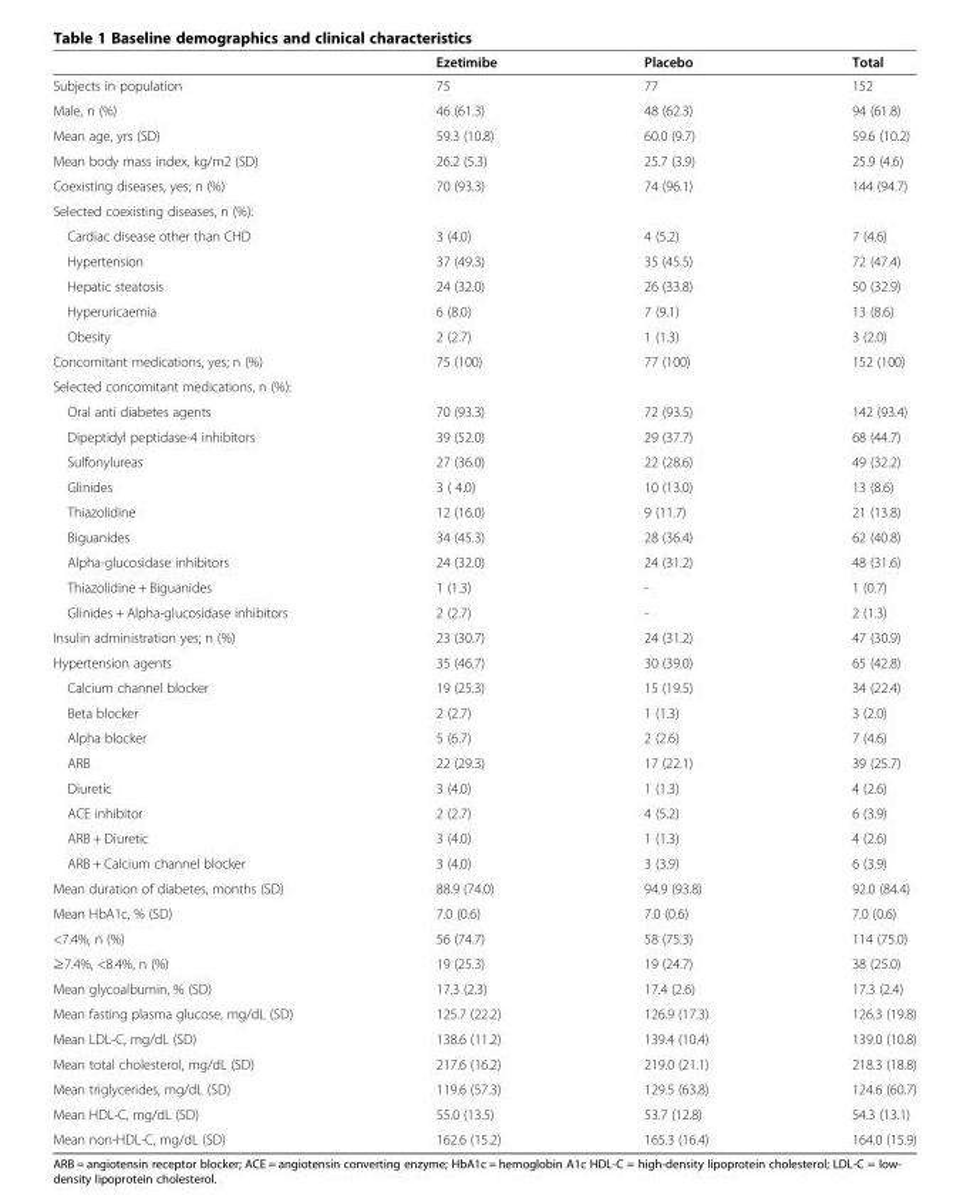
<table><thead><tr><td></td><td>Ezetimibe</td><td>Placebo</td><td>Total</td></tr></thead><tbody><tr><td>Subjects in population</td><td>75</td><td>77</td><td>152</td></tr><tr><td>Male, n (%)</td><td>46 (61.3)</td><td>48 (62.3)</td><td>94 (61.8)</td></tr><tr><td>Mean age, yrs (SD)</td><td>59.3 (10.8)</td><td>60.0 (9.7)</td><td>59.6 (10.2)</td></tr><tr><td>Mean body mass index, kg/m2 (SD)</td><td>26.2 (5.3)</td><td>25.7 (3.9)</td><td>25.9 (4.6)</td></tr><tr><td>Coexisting diseases, yes; n (%)</td><td>70 (93.3)</td><td>74 (96.1)</td><td>144 (94.7)</td></tr><tr><td colspan="4">Selected coexisting diseases, n (%):</td></tr><tr><td>Cardiac disease other than CHD</td><td>3 (4.0)</td><td>4 (5.2)</td><td>7 (4.6)</td></tr><tr><td>Hypertension</td><td>37 (49.3)</td><td>35 (45.5)</td><td>72 (47.4)</td></tr><tr><td>Hepatic steatosis</td><td>24 (32.0)</td><td>26 (33.8)</td><td>50 (32.9)</td></tr><tr><td>Hyperuricaemia</td><td>6 (8.0)</td><td>7 (9.1)</td><td>13 (8.6)</td></tr><tr><td>Obesity</td><td>2 (2.7)</td><td>1 (1.3)</td><td>3 (2.0)</td></tr><tr><td>Concomitant medications, yes; n (%)</td><td>75 (100)</td><td>77 (100)</td><td>152 (100)</td></tr><tr><td colspan="4">Selected concomitant medications, n (%):</td></tr><tr><td>Oral anti diabetes agents</td><td>70 (93.3)</td><td>72 (93.5)</td><td>142 (93.4)</td></tr><tr><td>Dipeptidyl peptidase-4 inhibitors</td><td>39 (52.0)</td><td>29 (37.7)</td><td>68 (44.7)</td></tr><tr><td>Sulfonylureas</td><td>27 (36.0)</td><td>22 (28.6)</td><td>49 (32.2)</td></tr><tr><td>Glinides</td><td>3 ( 4.0)</td><td>10 (13.0)</td><td>13 (8.6)</td></tr><tr><td>Thiazolidine</td><td>12 (16.0)</td><td>9 (11.7)</td><td>21 (13.8)</td></tr><tr><td>Biguanides</td><td>34 (45.3)</td><td>28 (36.4)</td><td>62 (40.8)</td></tr><tr><td>Alpha-glucosidase inhibitors</td><td>24 (32.0)</td><td>24 (31.2)</td><td>48 (31.6)</td></tr><tr><td>Thiazolidine + Biguanides</td><td>1 (1.3)</td><td>-</td><td>1 (0.7)</td></tr><tr><td>Glinides + Alpha-glucosidase inhibitors</td><td>2 (2.7)</td><td>-</td><td>2 (1.3)</td></tr><tr><td>Insulin administration yes; n (%)</td><td>23 (30.7)</td><td>24 (31.2)</td><td>47 (30.9)</td></tr><tr><td>Hypertension agents</td><td>35 (46.7)</td><td>30 (39.0)</td><td>65 (42.8)</td></tr><tr><td>Calcium channel blocker</td><td>19 (25.3)</td><td>15 (19.5)</td><td>34 (22.4)</td></tr><tr><td>Beta blocker</td><td>2 (2.7)</td><td>1 (1.3)</td><td>3 (2.0)</td></tr><tr><td>Alpha blocker</td><td>5 (6.7)</td><td>2 (2.6)</td><td>7 (4.6)</td></tr><tr><td>ARB</td><td>22 (29.3)</td><td>17 (22.1)</td><td>39 (25.7)</td></tr><tr><td>Diuretic</td><td>3 (4.0)</td><td>1 (1.3)</td><td>4 (2.6)</td></tr><tr><td>ACE inhibitor</td><td>2 (2.7)</td><td>4 (5.2)</td><td>6 (3.9)</td></tr><tr><td>ARB + Diuretic</td><td>3 (4.0)</td><td>1 (1.3)</td><td>4 (2.6)</td></tr><tr><td>ARB + Calcium channel blocker</td><td>3 (4.0)</td><td>3 (3.9)</td><td>6 (3.9)</td></tr><tr><td>Mean duration of diabetes, months (SD)</td><td>88.9 (74.0)</td><td>94.9 (93.8)</td><td>92.0 (84.4)</td></tr><tr><td>Mean HbA1c, % (SD)</td><td>7.0 (0.6)</td><td>7.0 (0.6)</td><td>7.0 (0.6)</td></tr><tr><td>&lt;7.4%, n (%)</td><td>56 (74.7)</td><td>58 (75.3)</td><td>114 (75.0)</td></tr><tr><td>≥7.4%, &lt;8.4%, n (%)</td><td>19 (25.3)</td><td>19 (24.7)</td><td>38 (25.0)</td></tr><tr><td>Mean glycoalbumin, % (SD)</td><td>17.3 (2.3)</td><td>17.4 (2.6)</td><td>17.3 (2.4)</td></tr><tr><td>Mean fasting plasma glucose, mg/dL (SD)</td><td>125.7 (22.2)</td><td>126.9 (17.3)</td><td>126.3 (19.8)</td></tr><tr><td>Mean LDL-C, mg/dL (SD)</td><td>138.6 (11.2)</td><td>139.4 (10.4)</td><td>139.0 (10.8)</td></tr><tr><td>Mean total cholesterol, mg/dL (SD)</td><td>217.6 (16.2)</td><td>219.0 (21.1)</td><td>218.3 (18.8)</td></tr><tr><td>Mean triglycerides, mg/dL (SD)</td><td>119.6 (57.3)</td><td>129.5 (63.8)</td><td>124.6 (60.7)</td></tr><tr><td>Mean HDL-C, mg/dL (SD)</td><td>55.0 (13.5)</td><td>53.7 (12.8)</td><td>54.3 (13.1)</td></tr><tr><td>Mean non-HDL-C, mg/dL (SD)</td><td>162.6 (15.2)</td><td>165.3 (16.4)</td><td>164.0 (15.9)</td></tr></tbody></table>